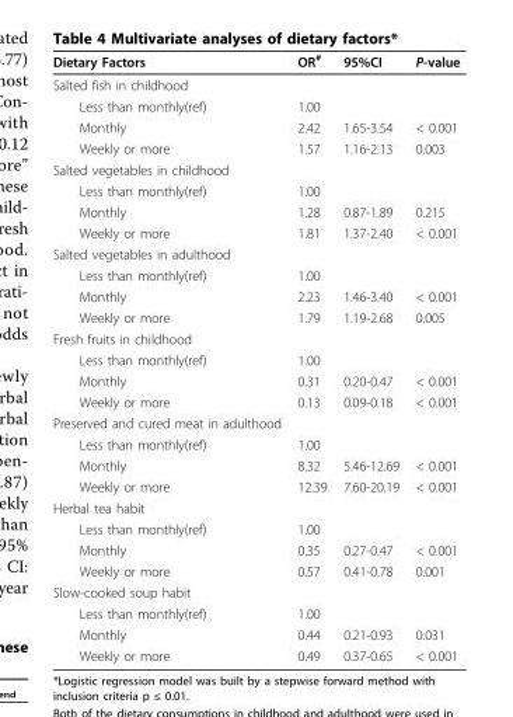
<table><thead><tr><td>Dietary Factors</td><td>OR<sup>#</sup></td><td>95%CI</td><td>P-value</td></tr></thead><tbody><tr><td colspan="4">Salted fish in childhood</td></tr><tr><td>Less than monthly(ref)</td><td>1.00</td><td></td><td></td></tr><tr><td>Monthly</td><td>2.42</td><td>1.65-3.54</td><td>&lt; 0.001</td></tr><tr><td>Weekly or more</td><td>1.57</td><td>1.16-2.13</td><td>0.003</td></tr><tr><td colspan="4">Salted vegetables in childhood</td></tr><tr><td>Less than monthly(ref)</td><td>1.00</td><td></td><td></td></tr><tr><td>Monthly</td><td>1.28</td><td>0.87-1.89</td><td>0.215</td></tr><tr><td>Weekly or more</td><td>1.81</td><td>1.37-2.40</td><td>&lt; 0.001</td></tr><tr><td colspan="4">Salted vegetables in adulthood</td></tr><tr><td>Less than monthly(ref)</td><td>1.00</td><td></td><td></td></tr><tr><td>Monthly</td><td>2.23</td><td>1.46-3.40</td><td>&lt; 0.001</td></tr><tr><td>Weekly or more</td><td>1.79</td><td>1.19-2.68</td><td>0.005</td></tr><tr><td colspan="4">Fresh fruits in childhood</td></tr><tr><td>Less than monthly(ref)</td><td>1.00</td><td></td><td></td></tr><tr><td>Monthly</td><td>0.31</td><td>0.20-0.47</td><td>&lt; 0.001</td></tr><tr><td>Weekly or more</td><td>0.13</td><td>0.09-0.18</td><td>&lt; 0.001</td></tr><tr><td colspan="4">Preserved and cured meat in adulthood</td></tr><tr><td>Less than monthly(ref)</td><td>1.00</td><td></td><td></td></tr><tr><td>Monthly</td><td>8.32</td><td>5.46-12.69</td><td>&lt; 0.001</td></tr><tr><td>Weekly or more</td><td>12.39</td><td>7.60-20.19</td><td>&lt; 0.001</td></tr><tr><td colspan="4">Herbal tea habit</td></tr><tr><td>Less than monthly(ref)</td><td>1.00</td><td></td><td></td></tr><tr><td>Monthly</td><td>0.35</td><td>0.27-0.47</td><td>&lt; 0.001</td></tr><tr><td>Weekly or more</td><td>0.57</td><td>0.41-0.78</td><td>0.001</td></tr><tr><td colspan="4">Slow-cooked soup habit</td></tr><tr><td>Less than monthly(ref)</td><td>1.00</td><td></td><td></td></tr><tr><td>Monthly</td><td>0.44</td><td>0.21-0.93</td><td>0.031</td></tr><tr><td>Weekly or more</td><td>0.49</td><td>0.37-0.65</td><td>&lt; 0.001</td></tr></tbody></table>